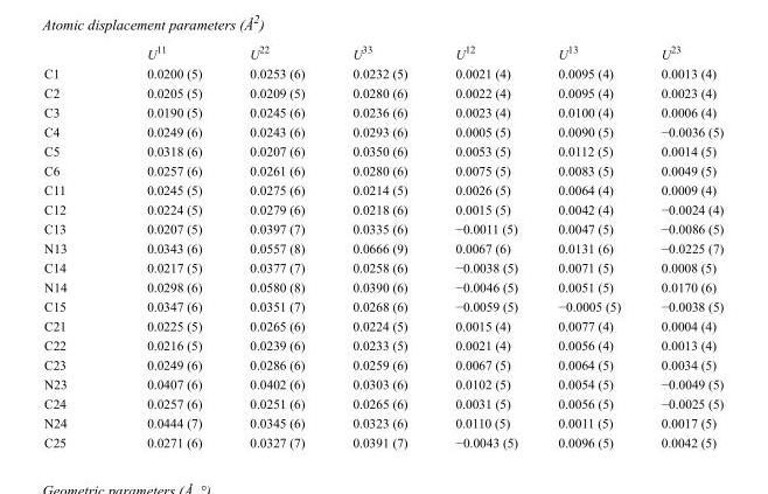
<table><thead><tr><td></td><td>U<sup>11</sup></td><td>U<sup>22</sup></td><td>U<sup>33</sup></td><td>U<sup>12</sup></td><td>U<sup>13</sup></td><td>U<sup>23</sup></td></tr></thead><tbody><tr><td>C1</td><td>0.0200 (5)</td><td>0.0253 (6)</td><td>0.0232 (5)</td><td>0.0021 (4)</td><td>0.0095 (4)</td><td>0.0013 (4)</td></tr><tr><td>C2</td><td>0.0205 (5)</td><td>0.0209 (5)</td><td>0.0280 (6)</td><td>0.0022 (4)</td><td>0.0095 (4)</td><td>0.0023 (4)</td></tr><tr><td>C3</td><td>0.0190 (5)</td><td>0.0245 (6)</td><td>0.0236 (6)</td><td>0.0023 (4)</td><td>0.0100 (4)</td><td>0.0006 (4)</td></tr><tr><td>C4</td><td>0.0249 (6)</td><td>0.0243 (6)</td><td>0.0293 (6)</td><td>0.0005 (5)</td><td>0.0090 (5)</td><td>−0.0036 (5)</td></tr><tr><td>C5</td><td>0.0318 (6)</td><td>0.0207 (6)</td><td>0.0350 (6)</td><td>0.0053 (5)</td><td>0.0112 (5)</td><td>0.0014 (5)</td></tr><tr><td>C6</td><td>0.0257 (6)</td><td>0.0261 (6)</td><td>0.0280 (6)</td><td>0.0075 (5)</td><td>0.0083 (5)</td><td>0.0049 (5)</td></tr><tr><td>C11</td><td>0.0245 (5)</td><td>0.0275 (6)</td><td>0.0214 (5)</td><td>0.0026 (5)</td><td>0.0064 (4)</td><td>0.0009 (4)</td></tr><tr><td>C12</td><td>0.0224 (5)</td><td>0.0279 (6)</td><td>0.0218 (6)</td><td>0.0015 (5)</td><td>0.0042 (4)</td><td>−0.0024 (4)</td></tr><tr><td>C13</td><td>0.0207 (5)</td><td>0.0397 (7)</td><td>0.0335 (6)</td><td>−0.0011 (5)</td><td>0.0047 (5)</td><td>−0.0086 (5)</td></tr><tr><td>N13</td><td>0.0343 (6)</td><td>0.0557 (8)</td><td>0.0666 (9)</td><td>0.0067 (6)</td><td>0.0131 (6)</td><td>−0.0225 (7)</td></tr><tr><td>C14</td><td>0.0217 (5)</td><td>0.0377 (7)</td><td>0.0258 (6)</td><td>−0.0038 (5)</td><td>0.0071 (5)</td><td>0.0008 (5)</td></tr><tr><td>N14</td><td>0.0298 (6)</td><td>0.0580 (8)</td><td>0.0390 (6)</td><td>−0.0046 (5)</td><td>0.0051 (5)</td><td>0.0170 (6)</td></tr><tr><td>C15</td><td>0.0347 (6)</td><td>0.0351 (7)</td><td>0.0268 (6)</td><td>−0.0059 (5)</td><td>−0.0005 (5)</td><td>−0.0038 (5)</td></tr><tr><td>C21</td><td>0.0225 (5)</td><td>0.0265 (6)</td><td>0.0224 (5)</td><td>0.0015 (4)</td><td>0.0077 (4)</td><td>0.0004 (4)</td></tr><tr><td>C22</td><td>0.0216 (5)</td><td>0.0239 (6)</td><td>0.0233 (5)</td><td>0.0021 (4)</td><td>0.0056 (4)</td><td>0.0013 (4)</td></tr><tr><td>C23</td><td>0.0249 (6)</td><td>0.0286 (6)</td><td>0.0259 (6)</td><td>0.0067 (5)</td><td>0.0064 (5)</td><td>0.0034 (5)</td></tr><tr><td>N23</td><td>0.0407 (6)</td><td>0.0402 (6)</td><td>0.0303 (6)</td><td>0.0102 (5)</td><td>0.0054 (5)</td><td>−0.0049 (5)</td></tr><tr><td>C24</td><td>0.0257 (6)</td><td>0.0251 (6)</td><td>0.0265 (6)</td><td>0.0031 (5)</td><td>0.0056 (5)</td><td>−0.0025 (5)</td></tr><tr><td>N24</td><td>0.0444 (7)</td><td>0.0345 (6)</td><td>0.0323 (6)</td><td>0.0110 (5)</td><td>0.0011 (5)</td><td>0.0017 (5)</td></tr><tr><td>C25</td><td>0.0271 (6)</td><td>0.0327 (7)</td><td>0.0391 (7)</td><td>−0.0043 (5)</td><td>0.0096 (5)</td><td>0.0042 (5)</td></tr></tbody></table>